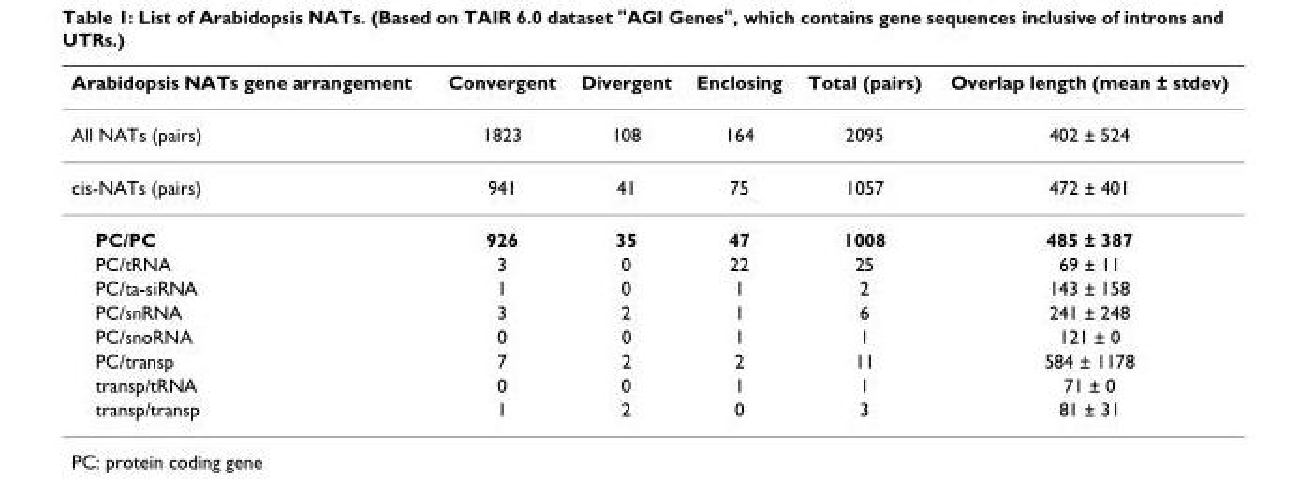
<table><thead><tr><td>Arabidopsis NATs gene arrangement</td><td>Convergent</td><td>Divergent</td><td>Enclosing</td><td>Total (pairs)</td><td>Overlap length (mean ± stdev)</td></tr></thead><tbody><tr><td>All NATs (pairs)</td><td>1823</td><td>108</td><td>164</td><td>2095</td><td>402 ± 524</td></tr><tr><td>cis-NATs (pairs)</td><td>941</td><td>41</td><td>75</td><td>1057</td><td>472 ± 401</td></tr><tr><td>PC/PC</td><td>926</td><td>35</td><td>47</td><td>1008</td><td>485 ± 387</td></tr><tr><td>PC/tRNA</td><td>3</td><td>0</td><td>22</td><td>25</td><td>69 ± 11</td></tr><tr><td>PC/ta-siRNA</td><td>1</td><td>0</td><td>1</td><td>2</td><td>143 ± 158</td></tr><tr><td>PC/snRNA</td><td>3</td><td>2</td><td>1</td><td>6</td><td>241 ± 248</td></tr><tr><td>PC/snoRNA</td><td>0</td><td>0</td><td>1</td><td>1</td><td>121 ± 0</td></tr><tr><td>PC/transp</td><td>7</td><td>2</td><td>2</td><td>11</td><td>584 ± 1178</td></tr><tr><td>transp/tRNA</td><td>0</td><td>0</td><td>1</td><td>1</td><td>71 ± 0</td></tr><tr><td>transp/transp</td><td>1</td><td>2</td><td>0</td><td>3</td><td>81 ± 31</td></tr></tbody></table>